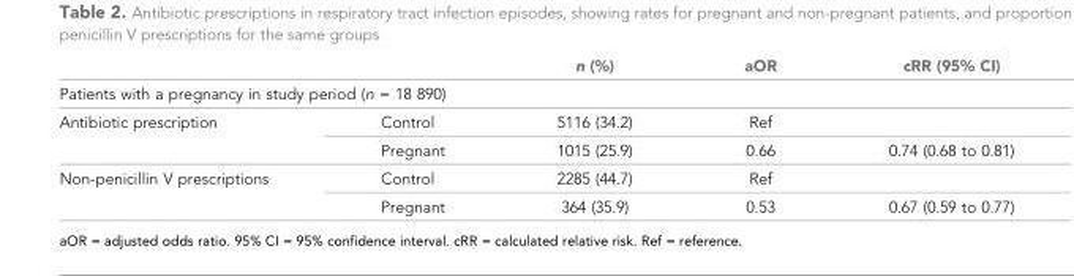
<table><thead><tr><td></td><td></td><td>n (%)</td><td>aOR</td><td>cRR (95% CI)</td></tr></thead><tbody><tr><td colspan="5">Patients with a pregnancy in study period (n = 18 890)</td></tr><tr><td rowspan="2">Antibiotic prescription</td><td>Control</td><td>5116 (34.2)</td><td>Ref</td><td></td></tr><tr><td>Pregnant</td><td>1015 (25.9)</td><td>0.66</td><td>0.74 (0.68 to 0.81)</td></tr><tr><td rowspan="2">Non-penicillin V prescriptions</td><td>Control</td><td>2285 (44.7)</td><td>Ref</td><td></td></tr><tr><td>Pregnant</td><td>364 (35.9)</td><td>0.53</td><td>0.67 (0.59 to 0.77)</td></tr></tbody></table>